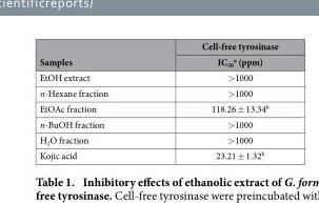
<table><thead><tr><td rowspan="2">Samples</td><td rowspan="2">Cell-free tyrosinase IC<sub>50</sub> <sup>a</sup> (ppm)</td></tr><tr></tr></thead><tbody><tr><td>EtOH extract</td><td>&gt; 1000</td></tr><tr><td>n-Hexane fraction</td><td>&gt; 1000</td></tr><tr><td>EtOAc fraction</td><td>118.26 ± 13.34<sup>b</sup></td></tr><tr><td>n-BuOH fraction</td><td>&gt; 1000</td></tr><tr><td>H<sub>2</sub>O fraction</td><td>&gt; 1000</td></tr><tr><td>Kojic acid</td><td>23.21 ± 1.32<sup>b</sup></td></tr></tbody></table>